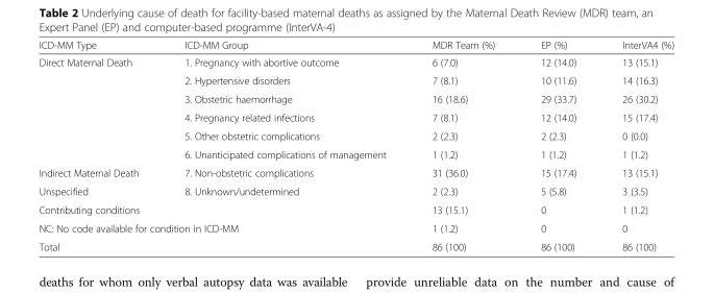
<table><thead><tr><td>ICD-MM Type</td><td>ICD-MM Group</td><td>MDR Team (%)</td><td>EP (%)</td><td>InterVA4 (%)</td></tr></thead><tbody><tr><td rowspan="6">Direct Maternal Death</td><td>1. Pregnancy with abortive outcome</td><td>6 (7.0)</td><td>12 (14.0)</td><td>13 (15.1)</td></tr><tr><td>2. Hypertensive disorders</td><td>7 (8.1)</td><td>10 (11.6)</td><td>14 (16.3)</td></tr><tr><td>3. Obstetric haemorrhage</td><td>16 (18.6)</td><td>29 (33.7)</td><td>26 (30.2)</td></tr><tr><td>4. Pregnancy related infections</td><td>7 (8.1)</td><td>12 (14.0)</td><td>15 (17.4)</td></tr><tr><td>5. Other obstetric complications</td><td>2 (2.3)</td><td>2 (2.3)</td><td>0 (0.0)</td></tr><tr><td>6. Unanticipated complications of management</td><td>1 (1.2)</td><td>1 (1.2)</td><td>1 (1.2)</td></tr><tr><td>Indirect Maternal Death</td><td>7. Non-obstetric complications</td><td>31 (36.0)</td><td>15 (17.4)</td><td>13 (15.1)</td></tr><tr><td>Unspecified</td><td>8. Unknown/undetermined</td><td>2 (2.3)</td><td>5 (5.8)</td><td>3 (3.5)</td></tr><tr><td colspan="2">Contributing conditions</td><td>13 (15.1)</td><td>0</td><td>1 (1.2)</td></tr><tr><td colspan="2">NC: No code available for condition in ICD-MM</td><td>1 (1.2)</td><td>0</td><td>0</td></tr><tr><td colspan="2">Total</td><td>86 (100)</td><td>86 (100)</td><td>86 (100)</td></tr></tbody></table>